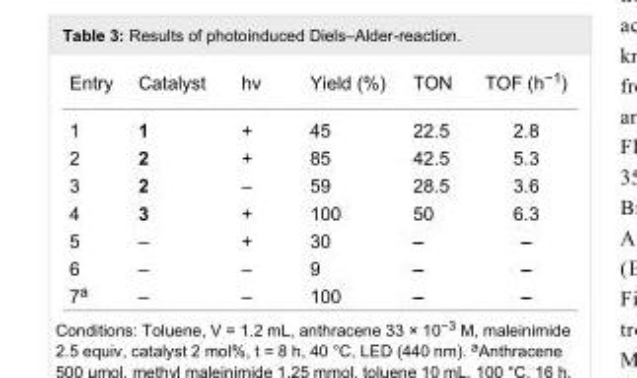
<table><tbody><tr><td>Entry</td><td>Catalyst</td><td>hν</td><td>Yield (%)</td><td>TON</td><td>TOF (h<sup>−1</sup>)</td></tr><tr><td>1</td><td>1</td><td>+</td><td>45</td><td>22.5</td><td>2.8</td></tr><tr><td>2</td><td>2</td><td>+</td><td>85</td><td>42.5</td><td>5.3</td></tr><tr><td>3</td><td>2</td><td>–</td><td>59</td><td>28.5</td><td>3.6</td></tr><tr><td>4</td><td>3</td><td>+</td><td>100</td><td>50</td><td>6.3</td></tr><tr><td>5</td><td>–</td><td>+</td><td>30</td><td>–</td><td>–</td></tr><tr><td>6</td><td>–</td><td>–</td><td>9</td><td>–</td><td>–</td></tr><tr><td>7<sup>a</sup></td><td>–</td><td>–</td><td>100</td><td>–</td><td>–</td></tr></tbody></table>